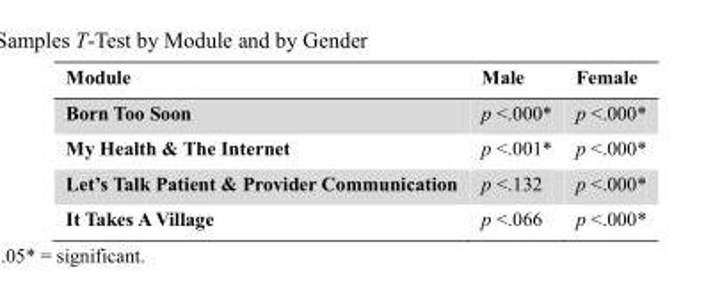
<table><thead><tr><td>Module</td><td>Male</td><td>Female</td></tr></thead><tbody><tr><td>Born Too Soon</td><td>p &lt;.000*</td><td>p &lt;.000*</td></tr><tr><td>My Health &amp; The Internet</td><td>p &lt;.001*</td><td>p &lt;.000*</td></tr><tr><td>Let’s Talk Patient &amp; Provider Communication</td><td>p &lt;.132</td><td>p &lt;.000*</td></tr><tr><td>It Takes A Village</td><td>p &lt;.066</td><td>p &lt;.000*</td></tr></tbody></table>